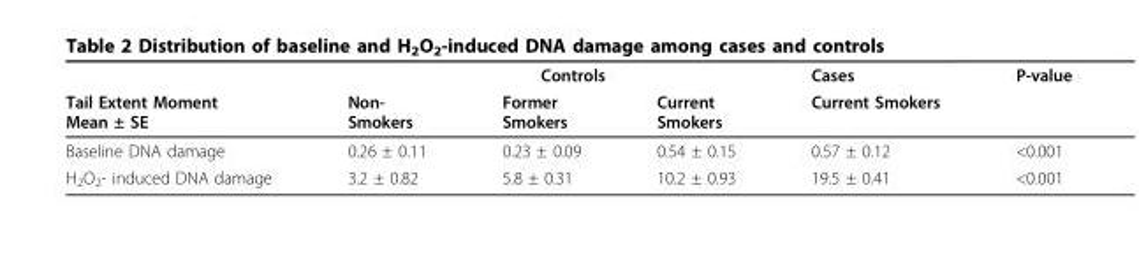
<table><thead><tr><td rowspan="2">Tail Extent Moment Mean ± SE</td><td colspan="3">Controls</td><td rowspan="2">Cases Current Smokers</td><td rowspan="2">P-value</td></tr><tr><td>Non- Smokers</td><td>Former Smokers</td><td>Current Smokers</td></tr></thead><tbody><tr><td>Baseline DNA damage</td><td>0.26 ± 0.11</td><td>0.23 ± 0.09</td><td>0.54 ± 0.15</td><td>0.57 ± 0.12</td><td>&lt;0.001</td></tr><tr><td>H<sub>2</sub>O<sub>2</sub>- induced DNA damage</td><td>3.2 ± 0.82</td><td>5.8 ± 0.31</td><td>10.2 ± 0.93</td><td>19.5 ± 0.41</td><td>&lt;0.001</td></tr></tbody></table>